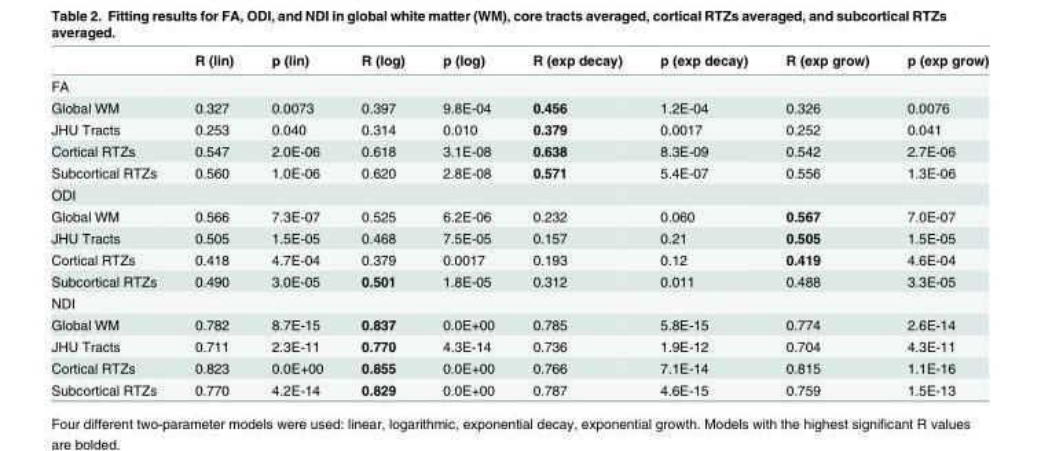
<table><thead><tr><td></td><td>R (lin)</td><td>p (lin)</td><td>R (log)</td><td>p (log)</td><td>R (exp decay)</td><td>p (exp decay)</td><td>R (exp grow)</td><td>p (exp grow)</td></tr></thead><tbody><tr><td colspan="9">FA</td></tr><tr><td>Global WM</td><td>0.327</td><td>0.0073</td><td>0.397</td><td>9.8E-04</td><td>0.456</td><td>1.2E-04</td><td>0.326</td><td>0.0076</td></tr><tr><td>JHU Tracts</td><td>0.253</td><td>0.040</td><td>0.314</td><td>0.010</td><td>0.379</td><td>0.0017</td><td>0.252</td><td>0.041</td></tr><tr><td>Cortical RTZs</td><td>0.547</td><td>2.0E-06</td><td>0.618</td><td>3.1E-08</td><td>0.638</td><td>8.3E-09</td><td>0.542</td><td>2.7E-06</td></tr><tr><td>Subcortical RTZs</td><td>0.560</td><td>1.0E-06</td><td>0.620</td><td>2.8E-08</td><td>0.571</td><td>5.4E-07</td><td>0.556</td><td>1.3E-06</td></tr><tr><td colspan="9">ODI</td></tr><tr><td>Global WM</td><td>0.566</td><td>7.3E-07</td><td>0.525</td><td>6.2E-06</td><td>0.232</td><td>0.060</td><td>0.567</td><td>7.0E-07</td></tr><tr><td>JHU Tracts</td><td>0.505</td><td>1.5E-05</td><td>0.468</td><td>7.5E-05</td><td>0.157</td><td>0.21</td><td>0.505</td><td>1.5E-05</td></tr><tr><td>Cortical RTZs</td><td>0.418</td><td>4.7E-04</td><td>0.379</td><td>0.0017</td><td>0.193</td><td>0.12</td><td>0.419</td><td>4.6E-04</td></tr><tr><td>Subcortical RTZs</td><td>0.490</td><td>3.0E-05</td><td>0.501</td><td>1.8E-05</td><td>0.312</td><td>0.011</td><td>0.488</td><td>3.3E-05</td></tr><tr><td colspan="9">NDI</td></tr><tr><td>Global WM</td><td>0.782</td><td>8.7E-15</td><td>0.837</td><td>0.0E+00</td><td>0.785</td><td>5.8E-15</td><td>0.774</td><td>2.6E-14</td></tr><tr><td>JHU Tracts</td><td>0.711</td><td>2.3E-11</td><td>0.770</td><td>4.3E-14</td><td>0.736</td><td>1.9E-12</td><td>0.704</td><td>4.3E-11</td></tr><tr><td>Cortical RTZs</td><td>0.823</td><td>0.0E+00</td><td>0.855</td><td>0.0E+00</td><td>0.766</td><td>7.1E-14</td><td>0.815</td><td>1.1E-16</td></tr><tr><td>Subcortical RTZs</td><td>0.770</td><td>4.2E-14</td><td>0.829</td><td>0.0E+00</td><td>0.787</td><td>4.6E-15</td><td>0.759</td><td>1.5E-13</td></tr></tbody></table>